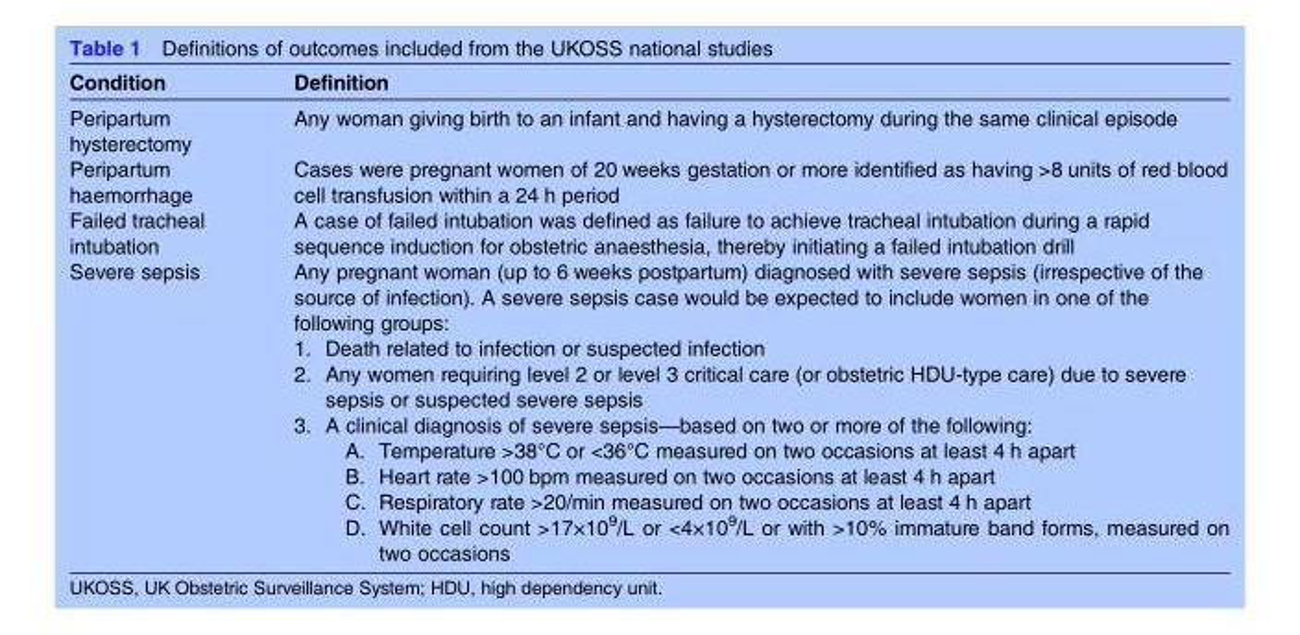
<table><thead><tr><td>Condition</td><td>Definition</td></tr></thead><tbody><tr><td>Peripartum hysterectomy</td><td>Any woman giving birth to an infant and having a hysterectomy during the same clinical episode</td></tr><tr><td>Peripartum haemorrhage</td><td>Cases were pregnant women of 20 weeks gestation or more identified as having &gt;8 units of red blood cell transfusion within a 24 h period</td></tr><tr><td>Failed tracheal intubation</td><td>A case of failed intubation was defined as failure to achieve tracheal intubation during a rapid sequence induction for obstetric anaesthesia, thereby initiating a failed intubation drill</td></tr><tr><td>Severe sepsis</td><td>Any pregnant woman (up to 6 weeks postpartum) diagnosed with severe sepsis (irrespective of the source of infection). A severe sepsis case would be expected to include women in one of the following groups: 1. Death related to infection or suspected infection 2. Any women requiring level 2 or level 3 critical care (or obstetric HDU-type care) due to severe sepsis or suspected severe sepsis 3. A clinical diagnosis of severe sepsis—based on two or more of the following: A. Temperature &gt;38°C or &lt;36°C measured on two occasions at least 4 h apart B. Heart rate &gt;100 bpm measured on two occasions at least 4 h apart C. Respiratory rate &gt;20/min measured on two occasions at least 4 h apart D. White cell count &gt;17×109/L or &lt;4×109/L or with &gt;10% immature band forms, measured on two occasions</td></tr></tbody></table>